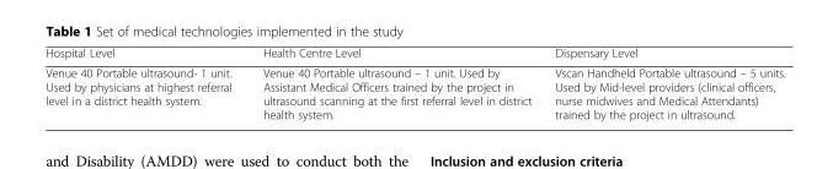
<table><thead><tr><td>Hospital Level</td><td>Health Centre Level</td><td>Dispensary Level</td></tr></thead><tbody><tr><td>Venue 40 Portable ultrasound- 1 unit. Used by physicians at highest referral level in a district health system.</td><td>Venue 40 Portable ultrasound – 1 unit. Used by Assistant Medical Officers trained by the project in ultrasound scanning at the first referral level in district health system.</td><td>Vscan Handheld Portable ultrasound – 5 units. Used by Mid-level providers (clinical officers, nurse midwives and Medical Attendants) trained by the project in ultrasound.</td></tr></tbody></table>